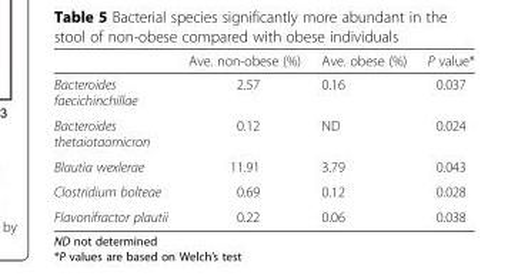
<table><thead><tr><td></td><td>Ave. non-obese (%)</td><td>Ave. obese (%)</td><td>P value*</td></tr></thead><tbody><tr><td>Bacteroides faecichinchillae</td><td>2.57</td><td>0.16</td><td>0.037</td></tr><tr><td>Bacteroides thetaiotaomicron</td><td>0.12</td><td>ND</td><td>0.024</td></tr><tr><td>Blautia wexlerae</td><td>11.91</td><td>3.79</td><td>0.043</td></tr><tr><td>Clostridium bolteae</td><td>0.69</td><td>0.12</td><td>0.028</td></tr><tr><td>Flavonifractor plautii</td><td>0.22</td><td>0.06</td><td>0.038</td></tr></tbody></table>